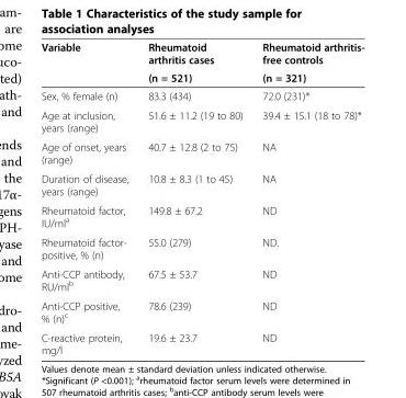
<table><thead><tr><td rowspan="2">Variable</td><td rowspan="2">Rheumatoid arthritis cases (n = 521)</td><td rowspan="2">Rheumatoid arthritis- free controls (n = 321)</td></tr><tr></tr></thead><tbody><tr><td>Sex, % female (n)</td><td>83.3 (434)</td><td>72.0 (231)*</td></tr><tr><td>Age at inclusion, years (range)</td><td>51.6 ± 11.2 (19 to 80)</td><td>39.4 ± 15.1 (18 to 78)*</td></tr><tr><td>Age of onset, years (range)</td><td>40.7 ± 12.8 (2 to 75)</td><td>NA</td></tr><tr><td>Duration of disease, years (range)</td><td>10.8 ± 8.3 (1 to 45)</td><td>NA</td></tr><tr><td>Rheumatoid factor, IU/ml<sup>a</sup></td><td>149.8 ± 67.2</td><td>ND</td></tr><tr><td>Rheumatoid factor- positive, % (n)</td><td>55.0 (279)</td><td>ND.</td></tr><tr><td>Anti-CCP antibody, RU/ml<sup>b</sup></td><td>67.5 ± 53.7</td><td>ND</td></tr><tr><td>Anti-CCP positive, % (n)<sup>c</sup></td><td>78.6 (239)</td><td>ND</td></tr><tr><td>C-reactive protein, mg/l</td><td>19.6 ± 23.7</td><td>ND</td></tr></tbody></table>